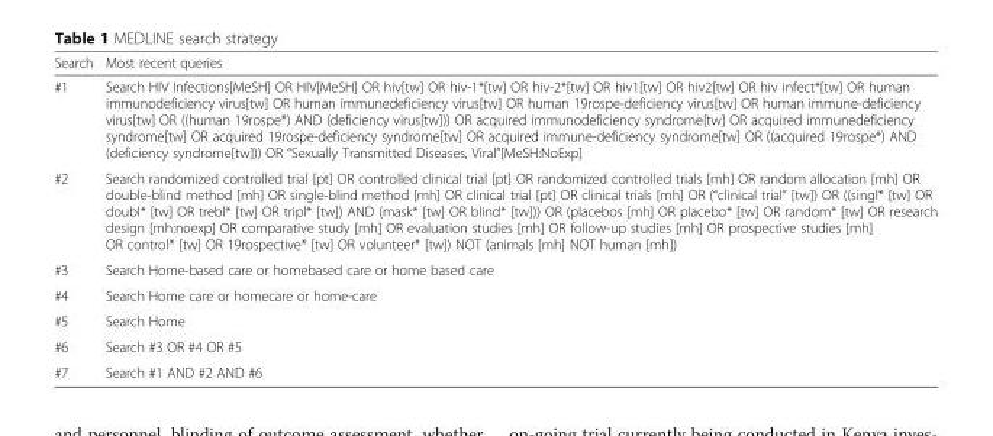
<table><thead><tr><td>Search</td><td>Most recent queries</td></tr></thead><tbody><tr><td>#1</td><td>Search HIV Infections[MeSH] OR HIV[MeSH] OR hiv[tw] OR hiv-1*[tw] OR hiv-2*[tw] OR hiv1[tw] OR hiv2[tw] OR hiv infect*[tw] OR human immunodeficiency virus[tw] OR human immunedeficiency virus[tw] OR human 19rospe-deficiency virus[tw] OR human immune-deficiency virus[tw] OR ((human 19rospe*) AND (deficiency virus[tw])) OR acquired immunodeficiency syndrome[tw] OR acquired immunedeficiency syndrome[tw] OR acquired 19rospe-deficiency syndrome[tw] OR acquired immune-deficiency syndrome[tw] OR ((acquired 19rospe*) AND (deficiency syndrome[tw])) OR “Sexually Transmitted Diseases, Viral”[MeSH:NoExp]</td></tr><tr><td>#2</td><td>Search randomized controlled trial [pt] OR controlled clinical trial [pt] OR randomized controlled trials [mh] OR random allocation [mh] OR double-blind method [mh] OR single-blind method [mh] OR clinical trial [pt] OR clinical trials [mh] OR (“clinical trial” [tw]) OR ((singl* [tw] OR doubl* [tw] OR trebl* [tw] OR tripl* [tw]) AND (mask* [tw] OR blind* [tw])) OR (placebos [mh] OR placebo* [tw] OR random* [tw] OR research design [mh:noexp] OR comparative study [mh] OR evaluation studies [mh] OR follow-up studies [mh] OR prospective studies [mh] OR control* [tw] OR 19rospective* [tw] OR volunteer* [tw]) NOT (animals [mh] NOT human [mh])</td></tr><tr><td>#3</td><td>Search Home-based care or homebased care or home based care</td></tr><tr><td>#4</td><td>Search Home care or homecare or home-care</td></tr><tr><td>#5</td><td>Search Home</td></tr><tr><td>#6</td><td>Search #3 OR #4 OR #5</td></tr><tr><td>#7</td><td>Search #1 AND #2 AND #6</td></tr></tbody></table>